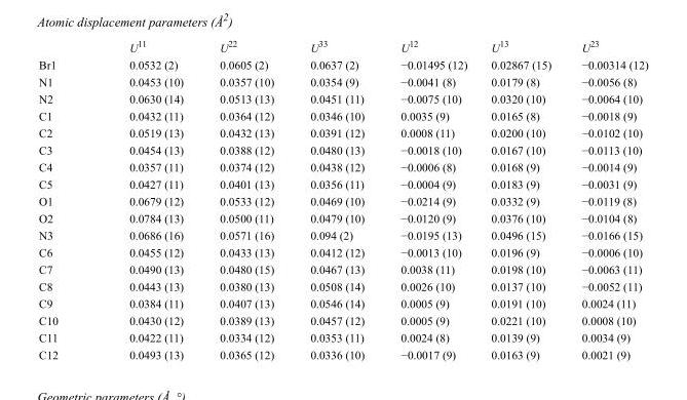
<table><thead><tr><td></td><td>U<sup>11</sup></td><td>U<sup>22</sup></td><td>U<sup>33</sup></td><td>U<sup>12</sup></td><td>U<sup>13</sup></td><td>U<sup>23</sup></td></tr></thead><tbody><tr><td>Br1</td><td>0.0532 (2)</td><td>0.0605 (2)</td><td>0.0637 (2)</td><td>−0.01495 (12)</td><td>0.02867 (15)</td><td>−0.00314 (12)</td></tr><tr><td>N1</td><td>0.0453 (10)</td><td>0.0357 (10)</td><td>0.0354 (9)</td><td>−0.0041 (8)</td><td>0.0179 (8)</td><td>−0.0056 (8)</td></tr><tr><td>N2</td><td>0.0630 (14)</td><td>0.0513 (13)</td><td>0.0451 (11)</td><td>−0.0075 (10)</td><td>0.0320 (10)</td><td>−0.0064 (10)</td></tr><tr><td>C1</td><td>0.0432 (11)</td><td>0.0364 (12)</td><td>0.0346 (10)</td><td>0.0035 (9)</td><td>0.0165 (8)</td><td>−0.0018 (9)</td></tr><tr><td>C2</td><td>0.0519 (13)</td><td>0.0432 (13)</td><td>0.0391 (12)</td><td>0.0008 (11)</td><td>0.0200 (10)</td><td>−0.0102 (10)</td></tr><tr><td>C3</td><td>0.0454 (13)</td><td>0.0388 (12)</td><td>0.0480 (13)</td><td>−0.0018 (10)</td><td>0.0167 (10)</td><td>−0.0113 (10)</td></tr><tr><td>C4</td><td>0.0357 (11)</td><td>0.0374 (12)</td><td>0.0438 (12)</td><td>−0.0006 (8)</td><td>0.0168 (9)</td><td>−0.0014 (9)</td></tr><tr><td>C5</td><td>0.0427 (11)</td><td>0.0401 (13)</td><td>0.0356 (11)</td><td>−0.0004 (9)</td><td>0.0183 (9)</td><td>−0.0031 (9)</td></tr><tr><td>O1</td><td>0.0679 (12)</td><td>0.0533 (12)</td><td>0.0469 (10)</td><td>−0.0214 (9)</td><td>0.0332 (9)</td><td>−0.0119 (8)</td></tr><tr><td>O2</td><td>0.0784 (13)</td><td>0.0500 (11)</td><td>0.0479 (10)</td><td>−0.0120 (9)</td><td>0.0376 (10)</td><td>−0.0104 (8)</td></tr><tr><td>N3</td><td>0.0686 (16)</td><td>0.0571 (16)</td><td>0.094 (2)</td><td>−0.0195 (13)</td><td>0.0496 (15)</td><td>−0.0166 (15)</td></tr><tr><td>C6</td><td>0.0455 (12)</td><td>0.0433 (13)</td><td>0.0412 (12)</td><td>−0.0013 (10)</td><td>0.0196 (9)</td><td>−0.0006 (10)</td></tr><tr><td>C7</td><td>0.0490 (13)</td><td>0.0480 (15)</td><td>0.0467 (13)</td><td>0.0038 (11)</td><td>0.0198 (10)</td><td>−0.0063 (11)</td></tr><tr><td>C8</td><td>0.0443 (13)</td><td>0.0380 (13)</td><td>0.0508 (14)</td><td>0.0026 (10)</td><td>0.0137 (10)</td><td>−0.0052 (11)</td></tr><tr><td>C9</td><td>0.0384 (11)</td><td>0.0407 (13)</td><td>0.0546 (14)</td><td>0.0005 (9)</td><td>0.0191 (10)</td><td>0.0024 (11)</td></tr><tr><td>C10</td><td>0.0430 (12)</td><td>0.0389 (13)</td><td>0.0457 (12)</td><td>0.0005 (9)</td><td>0.0221 (10)</td><td>0.0008 (10)</td></tr><tr><td>C11</td><td>0.0422 (11)</td><td>0.0334 (12)</td><td>0.0353 (11)</td><td>0.0024 (8)</td><td>0.0139 (9)</td><td>0.0034 (9)</td></tr><tr><td>C12</td><td>0.0493 (13)</td><td>0.0365 (12)</td><td>0.0336 (10)</td><td>−0.0017 (9)</td><td>0.0163 (9)</td><td>0.0021 (9)</td></tr></tbody></table>